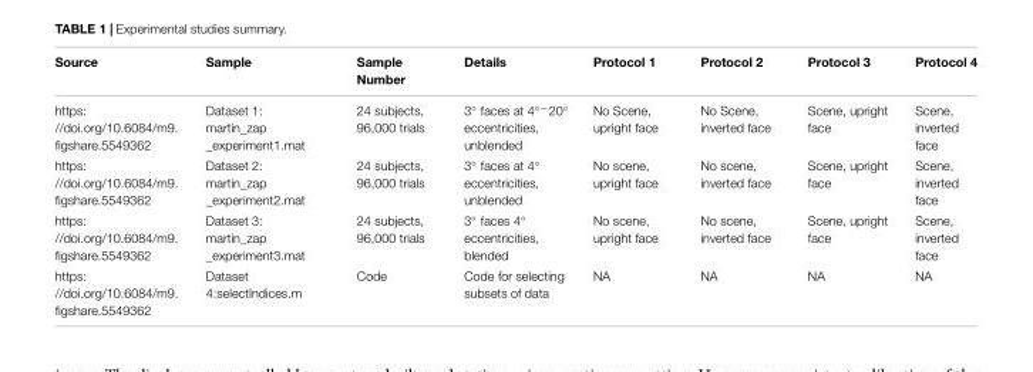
<table><thead><tr><td>Source</td><td>Sample</td><td>Sample Number</td><td>Details</td><td>Protocol 1</td><td>Protocol 2</td><td>Protocol 3</td><td>Protocol 4</td></tr></thead><tbody><tr><td>https: //doi.org/10.6084/m9. figshare.5549362</td><td>Dataset 1: martin_zap _experiment1.mat</td><td>24 subjects, 96,000 trials</td><td>3◦ faces at 4◦−20◦ eccentricities, unblended</td><td>No Scene, upright face</td><td>No Scene, inverted face</td><td>Scene, upright face</td><td>Scene, inverted face</td></tr><tr><td>https: //doi.org/10.6084/m9. figshare.5549362</td><td>Dataset 2: martin_zap _experiment2.mat</td><td>24 subjects, 96,000 trials</td><td>3◦ faces at 4◦ eccentricities, unblended</td><td>No scene, upright face</td><td>No scene, inverted face</td><td>Scene, upright face</td><td>Scene, inverted face</td></tr><tr><td>https: //doi.org/10.6084/m9. figshare.5549362</td><td>Dataset 3: martin_zap _experiment3.mat</td><td>24 subjects, 96,000 trials</td><td>3◦ faces 4◦ eccentricities, blended</td><td>No scene, upright face</td><td>No scene, inverted face</td><td>Scene, upright face</td><td>Scene, inverted face</td></tr><tr><td>https: //doi.org/10.6084/m9. figshare.5549362</td><td>Dataset 4:selectIndices.m</td><td>Code</td><td>Code for selecting subsets of data</td><td>NA</td><td>NA</td><td>NA</td><td>NA</td></tr></tbody></table>